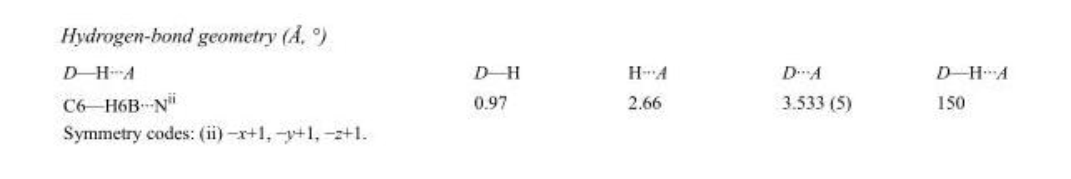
<table><tbody><tr><td>D—H···A</td><td>D—H</td><td>H···A</td><td>D···A</td><td>D—H···A</td></tr><tr><td>C6—H6B···N<sup>ii</sup></td><td>0.97</td><td>2.66</td><td>3.533 (5)</td><td>150</td></tr></tbody></table>